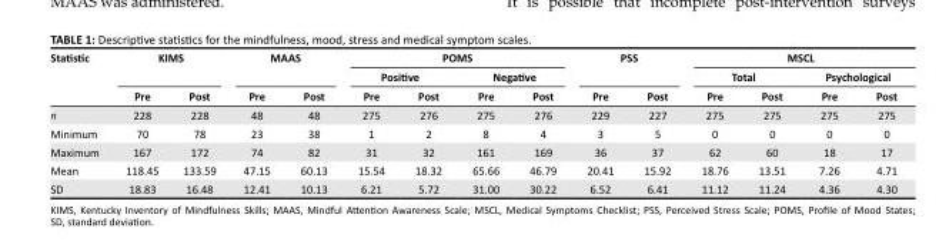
<table><thead><tr><td rowspan="3">Statistic</td><td rowspan="2" colspan="2">KIMS</td><td rowspan="2" colspan="2">MAAS</td><td colspan="4">POMS</td><td rowspan="2" colspan="2">PSS</td><td colspan="4">MSCL</td></tr><tr><td colspan="2">Positive</td><td colspan="2">Negative</td><td colspan="2">Total</td><td colspan="2">Psychological</td></tr><tr><td>Pre</td><td>Post</td><td>Pre</td><td>Post</td><td>Pre</td><td>Post</td><td>Pre</td><td>Post</td><td>Pre</td><td>Post</td><td>Pre</td><td>Post</td><td>Pre</td><td>Post</td></tr></thead><tbody><tr><td>n</td><td>228</td><td>228</td><td>48</td><td>48</td><td>275</td><td>276</td><td>275</td><td>276</td><td>229</td><td>227</td><td>275</td><td>275</td><td>275</td><td>275</td></tr><tr><td>Minimum</td><td>70</td><td>78</td><td>23</td><td>38</td><td>1</td><td>2</td><td>8</td><td>4</td><td>3</td><td>5</td><td>0</td><td>0</td><td>0</td><td>0</td></tr><tr><td>Maximum</td><td>167</td><td>172</td><td>74</td><td>82</td><td>31</td><td>32</td><td>161</td><td>169</td><td>36</td><td>37</td><td>62</td><td>60</td><td>18</td><td>17</td></tr><tr><td>Mean</td><td>118.45</td><td>133.59</td><td>47.15</td><td>60.13</td><td>15.54</td><td>18.32</td><td>65.66</td><td>46.79</td><td>20.41</td><td>15.92</td><td>18.76</td><td>13.51</td><td>7.26</td><td>4.71</td></tr><tr><td>SD</td><td>18.83</td><td>16.48</td><td>12.41</td><td>10.13</td><td>6.21</td><td>5.72</td><td>31.00</td><td>30.22</td><td>6.52</td><td>6.41</td><td>11.12</td><td>11.24</td><td>4.36</td><td>4.30</td></tr></tbody></table>